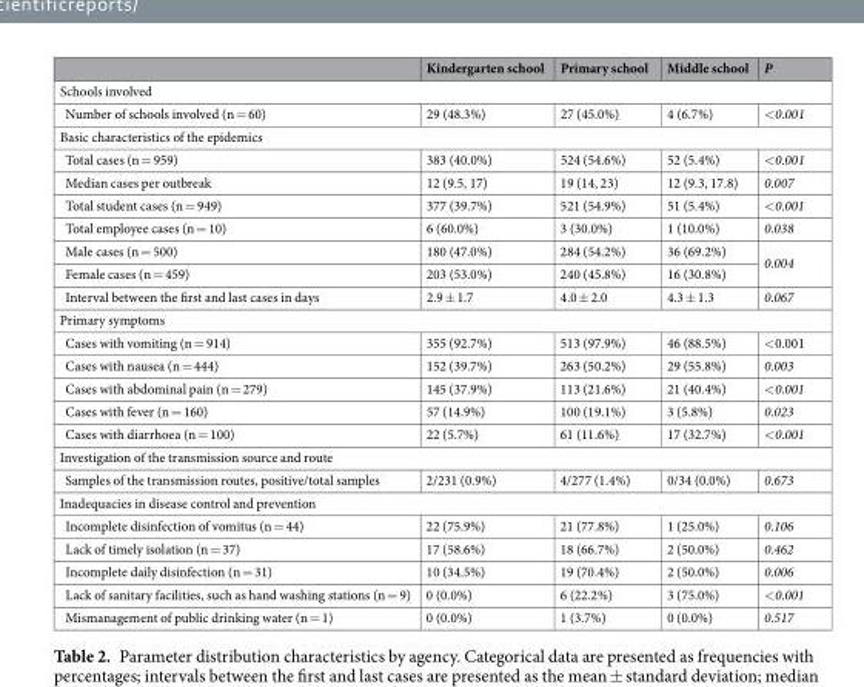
<table><thead><tr><td></td><td>Kindergarten school</td><td>Primary school</td><td>Middle school</td><td>P</td></tr></thead><tbody><tr><td colspan="5">Schools involved</td></tr><tr><td>Number of schools involved (n = 60)</td><td>29 (48.3%)</td><td>27 (45.0%)</td><td>4 (6.7%)</td><td>&lt;0.001</td></tr><tr><td colspan="5">Basic characteristics of the epidemics</td></tr><tr><td>Total cases (n = 959)</td><td>383 (40.0%)</td><td>524 (54.6%)</td><td>52 (5.4%)</td><td>&lt;0.001</td></tr><tr><td>Median cases per outbreak</td><td>12 (9.5, 17)</td><td>19 (14, 23)</td><td>12 (9.3, 17.8)</td><td>0.007</td></tr><tr><td>Total student cases (n = 949)</td><td>377 (39.7%)</td><td>521 (54.9%)</td><td>51 (5.4%)</td><td>&lt;0.001</td></tr><tr><td>Total employee cases (n = 10)</td><td>6 (60.0%)</td><td>3 (30.0%)</td><td>1 (10.0%)</td><td>0.038</td></tr><tr><td>Male cases (n = 500)</td><td>180 (47.0%)</td><td>284 (54.2%)</td><td>36 (69.2%)</td><td rowspan="2">0.004</td></tr><tr><td>Female cases (n = 459)</td><td>203 (53.0%)</td><td>240 (45.8%)</td><td>16 (30.8%)</td></tr><tr><td>Interval between the first and last cases in days</td><td>2.9 ± 1.7</td><td>4.0 ± 2.0</td><td>4.3 ± 1.3</td><td>0.067</td></tr><tr><td colspan="5">Primary symptoms</td></tr><tr><td>Cases with vomiting (n = 914)</td><td>355 (92.7%)</td><td>513 (97.9%)</td><td>46 (88.5%)</td><td>&lt;0.001</td></tr><tr><td>Cases with nausea (n = 444)</td><td>152 (39.7%)</td><td>263 (50.2%)</td><td>29 (55.8%)</td><td>0.003</td></tr><tr><td>Cases with abdominal pain (n = 279)</td><td>145 (37.9%)</td><td>113 (21.6%)</td><td>21 (40.4%)</td><td>&lt;0.001</td></tr><tr><td>Cases with fever (n = 160)</td><td>57 (14.9%)</td><td>100 (19.1%)</td><td>3 (5.8%)</td><td>0.023</td></tr><tr><td>Cases with diarrhoea (n = 100)</td><td>22 (5.7%)</td><td>61 (11.6%)</td><td>17 (32.7%)</td><td>&lt;0.001</td></tr><tr><td colspan="5">Investigation of the transmission source and route</td></tr><tr><td>Samples of the transmission routes, positive/total samples</td><td>2/231 (0.9%)</td><td>4/277 (1.4%)</td><td>0/34 (0.0%)</td><td>0.673</td></tr><tr><td colspan="5">Inadequacies in disease control and prevention</td></tr><tr><td>Incomplete disinfection of vomitus (n = 44)</td><td>22 (75.9%)</td><td>21 (77.8%)</td><td>1 (25.0%)</td><td>0.106</td></tr><tr><td>Lack of timely isolation (n = 37)</td><td>17 (58.6%)</td><td>18 (66.7%)</td><td>2 (50.0%)</td><td>0.462</td></tr><tr><td>Incomplete daily disinfection (n = 31)</td><td>10 (34.5%)</td><td>19 (70.4%)</td><td>2 (50.0%)</td><td>0.006</td></tr><tr><td>Lack of sanitary facilities, such as hand washing stations (n = 9)</td><td>0 (0.0%)</td><td>6 (22.2%)</td><td>3 (75.0%)</td><td>&lt;0.001</td></tr><tr><td>Mismanagement of public drinking water (n = 1)</td><td>0 (0.0%)</td><td>1 (3.7%)</td><td>0 (0.0%)</td><td>0.517</td></tr></tbody></table>